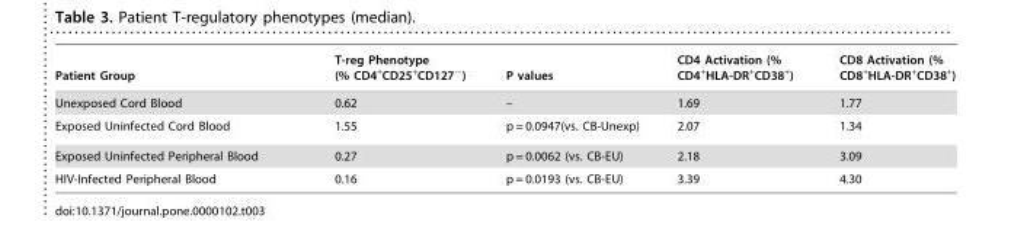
<table><thead><tr><td>Patient Group</td><td>T-reg Phenotype (% CD4<sup>+</sup>CD25<sup>+</sup>CD127<sup>−</sup>)</td><td>P values</td><td>CD4 Activation (% CD4<sup>+</sup>HLA-DR<sup>+</sup>CD38<sup>+</sup>)</td><td>CD8 Activation (% CD8<sup>+</sup>HLA-DR<sup>+</sup>CD38<sup>+</sup>)</td></tr></thead><tbody><tr><td>Unexposed Cord Blood</td><td>0.62</td><td>–</td><td>1.69</td><td>1.77</td></tr><tr><td>Exposed Uninfected Cord Blood</td><td>1.55</td><td>p = 0.0947(vs. CB-Unexp)</td><td>2.07</td><td>1.34</td></tr><tr><td>Exposed Uninfected Peripheral Blood</td><td>0.27</td><td>p = 0.0062 (vs. CB-EU)</td><td>2.18</td><td>3.09</td></tr><tr><td>HIV-Infected Peripheral Blood</td><td>0.16</td><td>p = 0.0193 (vs. CB-EU)</td><td>3.39</td><td>4.30</td></tr></tbody></table>